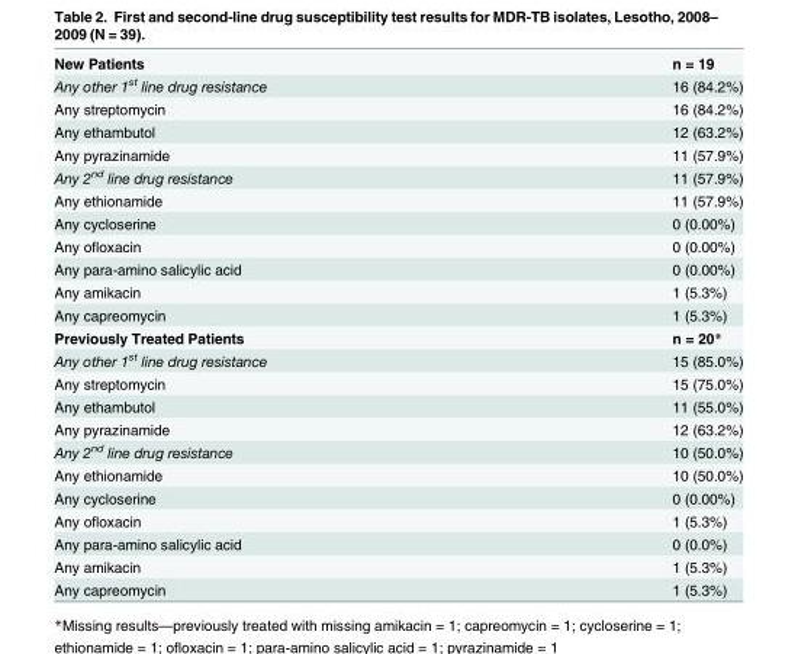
<table><tbody><tr><td>New Patients</td><td>n = 19</td></tr><tr><td>Any other 1<sup>st</sup> line drug resistance</td><td>16 (84.2%)</td></tr><tr><td>Any streptomycin</td><td>16 (84.2%)</td></tr><tr><td>Any ethambutol</td><td>12 (63.2%)</td></tr><tr><td>Any pyrazinamide</td><td>11 (57.9%)</td></tr><tr><td>Any 2<sup>nd</sup> line drug resistance</td><td>11 (57.9%)</td></tr><tr><td>Any ethionamide</td><td>11 (57.9%)</td></tr><tr><td>Any cycloserine</td><td>0 (0.00%)</td></tr><tr><td>Any ofloxacin</td><td>0 (0.00%)</td></tr><tr><td>Any para-amino salicylic acid</td><td>0 (0.00%)</td></tr><tr><td>Any amikacin</td><td>1 (5.3%)</td></tr><tr><td>Any capreomycin</td><td>1 (5.3%)</td></tr><tr><td>Previously Treated Patients</td><td>n = 20*</td></tr><tr><td>Any other 1<sup>st</sup> line drug resistance</td><td>15 (85.0%)</td></tr><tr><td>Any streptomycin</td><td>15 (75.0%)</td></tr><tr><td>Any ethambutol</td><td>11 (55.0%)</td></tr><tr><td>Any pyrazinamide</td><td>12 (63.2%)</td></tr><tr><td>Any 2<sup>nd</sup> line drug resistance</td><td>10 (50.0%)</td></tr><tr><td>Any ethionamide</td><td>10 (50.0%)</td></tr><tr><td>Any cycloserine</td><td>0 (0.00%)</td></tr><tr><td>Any ofloxacin</td><td>1 (5.3%)</td></tr><tr><td>Any para-amino salicylic acid</td><td>0 (0.0%)</td></tr><tr><td>Any amikacin</td><td>1 (5.3%)</td></tr><tr><td>Any capreomycin</td><td>1 (5.3%)</td></tr></tbody></table>